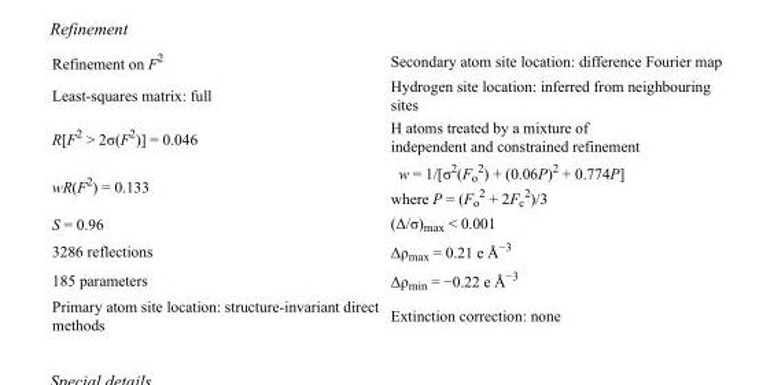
<table><tbody><tr><td>Refinement on F<sup>2</sup></td><td>Secondary atom site location: difference Fourier map</td></tr><tr><td>Least-squares matrix: full</td><td>Hydrogen site location: inferred from neighbouring sites</td></tr><tr><td>R[F<sup>2</sup> &gt; 2σ(F<sup>2</sup>)] = 0.046</td><td>H atoms treated by a mixture of independent and constrained refinement</td></tr><tr><td>wR(F<sup>2</sup>) = 0.133</td><td>w = 1/[σ<sup>2</sup>(F<sub>o</sub> <sup>2</sup>) + (0.06P)<sup>2</sup> + 0.774P] where P = (F<sub>o</sub> <sup>2</sup> + 2F<sub>c</sub> <sup>2</sup>)/3</td></tr><tr><td>S = 0.96</td><td>(Δ/σ)<sub>max</sub> &lt; 0.001</td></tr><tr><td>3286 reflections</td><td>Δρ<sub>max</sub> = 0.21 e Å<sup>−3</sup></td></tr><tr><td>185 parameters</td><td>Δρ<sub>min</sub> = −0.22 e Å<sup>−3</sup></td></tr><tr><td>Primary atom site location: structure-invariant direct methods</td><td>Extinction correction: none</td></tr></tbody></table>